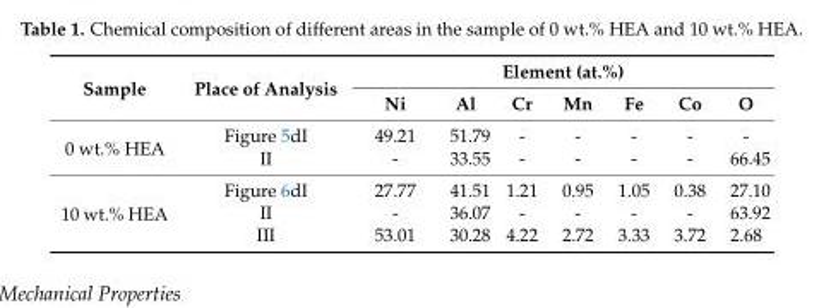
<table><thead><tr><td rowspan="2">Sample</td><td rowspan="2">Place of Analysis</td><td colspan="7">Element (at.%)</td></tr><tr><td>Ni</td><td>Al</td><td>Cr</td><td>Mn</td><td>Fe</td><td>Co</td><td>O</td></tr></thead><tbody><tr><td rowspan="2">0 wt.% HEA</td><td>Figure 5dI</td><td>49.21</td><td>51.79</td><td>-</td><td>-</td><td>-</td><td>-</td><td>-</td></tr><tr><td>II</td><td>-</td><td>33.55</td><td>-</td><td>-</td><td>-</td><td>-</td><td>66.45</td></tr><tr><td rowspan="3">10 wt.% HEA</td><td>Figure 6dI</td><td>27.77</td><td>41.51</td><td>1.21</td><td>0.95</td><td>1.05</td><td>0.38</td><td>27.10</td></tr><tr><td>II</td><td>-</td><td>36.07</td><td>-</td><td>-</td><td>-</td><td>-</td><td>63.92</td></tr><tr><td>III</td><td>53.01</td><td>30.28</td><td>4.22</td><td>2.72</td><td>3.33</td><td>3.72</td><td>2.68</td></tr></tbody></table>